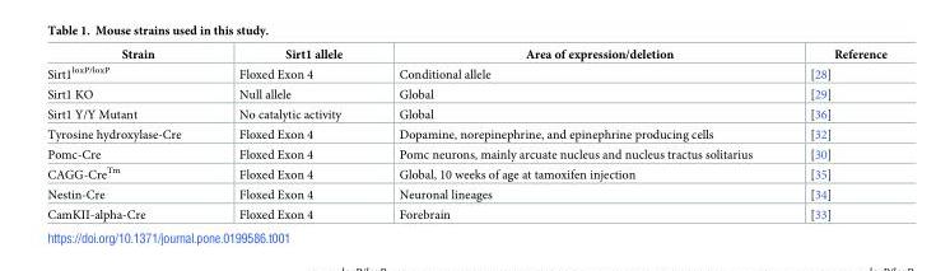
<table><thead><tr><td>Strain</td><td>Sirt1 allele</td><td>Area of expression/deletion</td><td>Reference</td></tr></thead><tbody><tr><td>Sirt1<sup>loxP/loxP</sup></td><td>Floxed Exon 4</td><td>Conditional allele</td><td>[28]</td></tr><tr><td>Sirt1 KO</td><td>Null allele</td><td>Global</td><td>[29]</td></tr><tr><td>Sirt1 Y/Y Mutant</td><td>No catalytic activity</td><td>Global</td><td>[36]</td></tr><tr><td>Tyrosine hydroxylase-Cre</td><td>Floxed Exon 4</td><td>Dopamine, norepinephrine, and epinephrine producing cells</td><td>[32]</td></tr><tr><td>Pomc-Cre</td><td>Floxed Exon 4</td><td>Pomc neurons, mainly arcuate nucleus and nucleus tractus solitarius</td><td>[30]</td></tr><tr><td>CAGG-Cre<sup>Tm</sup></td><td>Floxed Exon 4</td><td>Global, 10 weeks of age at tamoxifen injection</td><td>[35]</td></tr><tr><td>Nestin-Cre</td><td>Floxed Exon 4</td><td>Neuronal lineages</td><td>[34]</td></tr><tr><td>CamKII-alpha-Cre</td><td>Floxed Exon 4</td><td>Forebrain</td><td>[33]</td></tr></tbody></table>